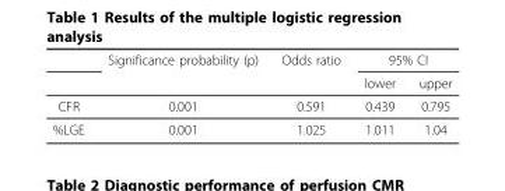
<table><thead><tr><td rowspan="2"></td><td rowspan="2">Significance probability (p)</td><td rowspan="2">Odds ratio</td><td colspan="2">95% CI</td></tr><tr><td>lower</td><td>upper</td></tr></thead><tbody><tr><td>CFR</td><td>0.001</td><td>0.591</td><td>0.439</td><td>0.795</td></tr><tr><td>%LGE</td><td>0.001</td><td>1.025</td><td>1.011</td><td>1.04</td></tr></tbody></table>